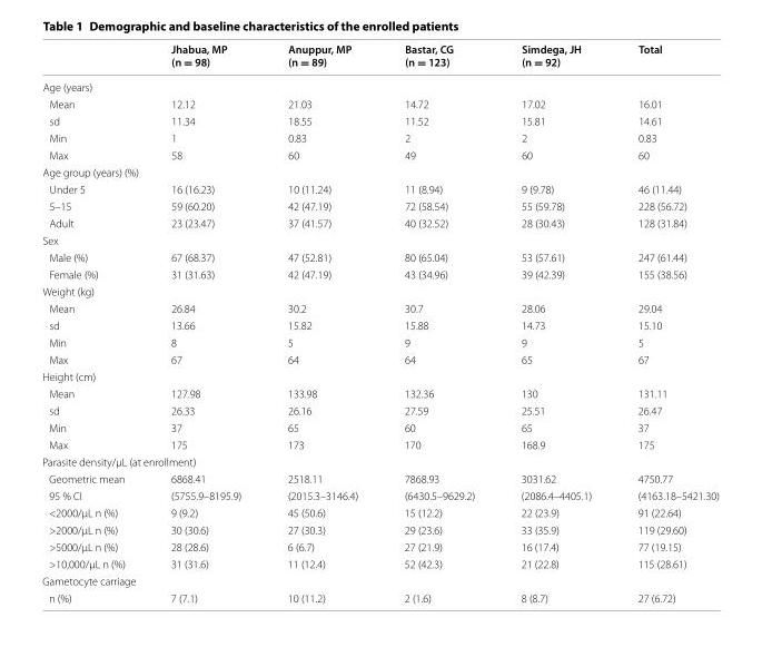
<table><thead><tr><td></td><td>Jhabua, MP (n = 98)</td><td>Anuppur, MP (n = 89)</td><td>Bastar, CG (n = 123)</td><td>Simdega, JH (n = 92)</td><td>Total</td></tr></thead><tbody><tr><td colspan="6">Age (years)</td></tr><tr><td>Mean</td><td>12.12</td><td>21.03</td><td>14.72</td><td>17.02</td><td>16.01</td></tr><tr><td>sd</td><td>11.34</td><td>18.55</td><td>11.52</td><td>15.81</td><td>14.61</td></tr><tr><td>Min</td><td>1</td><td>0.83</td><td>2</td><td>2</td><td>0.83</td></tr><tr><td>Max</td><td>58</td><td>60</td><td>49</td><td>60</td><td>60</td></tr><tr><td colspan="6">Age group (years) (%)</td></tr><tr><td>Under 5</td><td>16 (16.23)</td><td>10 (11.24)</td><td>11 (8.94)</td><td>9 (9.78)</td><td>46 (11.44)</td></tr><tr><td>5–15</td><td>59 (60.20)</td><td>42 (47.19)</td><td>72 (58.54)</td><td>55 (59.78)</td><td>228 (56.72)</td></tr><tr><td>Adult</td><td>23 (23.47)</td><td>37 (41.57)</td><td>40 (32.52)</td><td>28 (30.43)</td><td>128 (31.84)</td></tr><tr><td colspan="6">Sex</td></tr><tr><td>Male (%)</td><td>67 (68.37)</td><td>47 (52.81)</td><td>80 (65.04)</td><td>53 (57.61)</td><td>247 (61.44)</td></tr><tr><td>Female (%)</td><td>31 (31.63)</td><td>42 (47.19)</td><td>43 (34.96)</td><td>39 (42.39)</td><td>155 (38.56)</td></tr><tr><td colspan="6">Weight (kg)</td></tr><tr><td>Mean</td><td>26.84</td><td>30.2</td><td>30.7</td><td>28.06</td><td>29.04</td></tr><tr><td>sd</td><td>13.66</td><td>15.82</td><td>15.88</td><td>14.73</td><td>15.10</td></tr><tr><td>Min</td><td>8</td><td>5</td><td>9</td><td>9</td><td>5</td></tr><tr><td>Max</td><td>67</td><td>64</td><td>64</td><td>65</td><td>67</td></tr><tr><td colspan="6">Height (cm)</td></tr><tr><td>Mean</td><td>127.98</td><td>133.98</td><td>132.36</td><td>130</td><td>131.11</td></tr><tr><td>sd</td><td>26.33</td><td>26.16</td><td>27.59</td><td>25.51</td><td>26.47</td></tr><tr><td>Min</td><td>37</td><td>65</td><td>60</td><td>65</td><td>37</td></tr><tr><td>Max</td><td>175</td><td>173</td><td>170</td><td>168.9</td><td>175</td></tr><tr><td colspan="6">Parasite density/µL (at enrollment)</td></tr><tr><td>Geometric mean</td><td>6868.41</td><td>2518.11</td><td>7868.93</td><td>3031.62</td><td>4750.77</td></tr><tr><td>95 % CI</td><td>(5755.9–8195.9)</td><td>(2015.3–3146.4)</td><td>(6430.5–9629.2)</td><td>(2086.4–4405.1)</td><td>(4163.18–5421.30)</td></tr><tr><td>&lt;2000/µL n (%)</td><td>9 (9.2)</td><td>45 (50.6)</td><td>15 (12.2)</td><td>22 (23.9)</td><td>91 (22.64)</td></tr><tr><td>&gt;2000/µL n (%)</td><td>30 (30.6)</td><td>27 (30.3)</td><td>29 (23.6)</td><td>33 (35.9)</td><td>119 (29.60)</td></tr><tr><td>&gt;5000/µL n (%)</td><td>28 (28.6)</td><td>6 (6.7)</td><td>27 (21.9)</td><td>16 (17.4)</td><td>77 (19.15)</td></tr><tr><td>&gt;10,000/µL n (%)</td><td>31 (31.6)</td><td>11 (12.4)</td><td>52 (42.3)</td><td>21 (22.8)</td><td>115 (28.61)</td></tr><tr><td colspan="6">Gametocyte carriage</td></tr><tr><td>n (%)</td><td>7 (7.1)</td><td>10 (11.2)</td><td>2 (1.6)</td><td>8 (8.7)</td><td>27 (6.72)</td></tr></tbody></table>